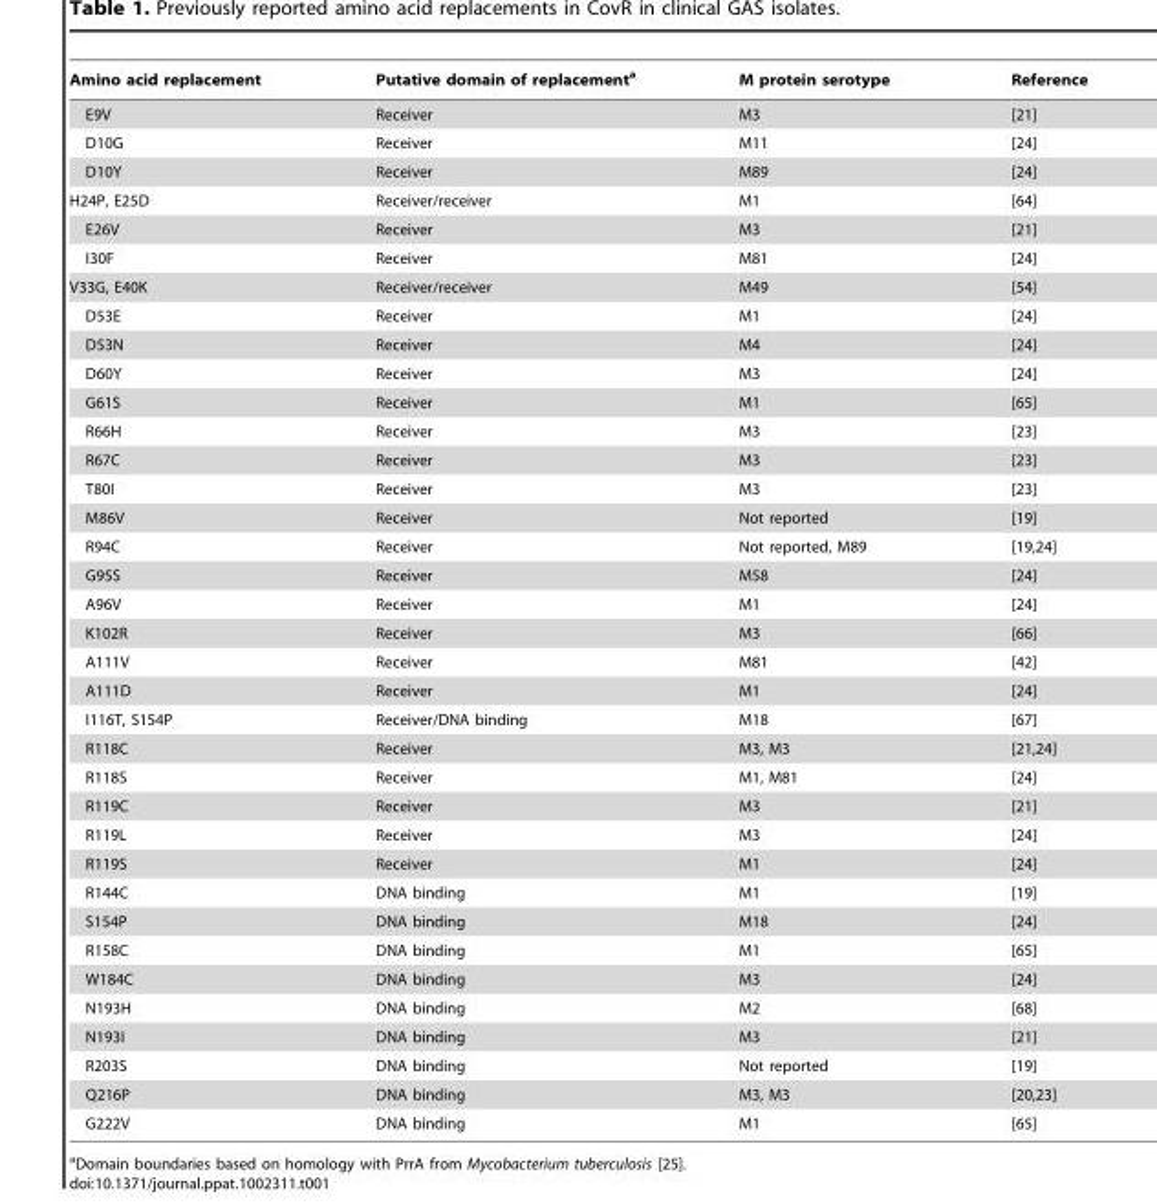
<table><thead><tr><td>Amino acid replacement</td><td>Putative domain of replacement<sup>a</sup></td><td>M protein serotype</td><td>Reference</td></tr></thead><tbody><tr><td>E9V</td><td>Receiver</td><td>M3</td><td>[21]</td></tr><tr><td>D10G</td><td>Receiver</td><td>M11</td><td>[24]</td></tr><tr><td>D10Y</td><td>Receiver</td><td>M89</td><td>[24]</td></tr><tr><td>H24P, E25D</td><td>Receiver/receiver</td><td>M1</td><td>[64]</td></tr><tr><td>E26V</td><td>Receiver</td><td>M3</td><td>[21]</td></tr><tr><td>I30F</td><td>Receiver</td><td>M81</td><td>[24]</td></tr><tr><td>V33G, E40K</td><td>Receiver/receiver</td><td>M49</td><td>[54]</td></tr><tr><td>D53E</td><td>Receiver</td><td>M1</td><td>[24]</td></tr><tr><td>D53N</td><td>Receiver</td><td>M4</td><td>[24]</td></tr><tr><td>D60Y</td><td>Receiver</td><td>M3</td><td>[24]</td></tr><tr><td>G61S</td><td>Receiver</td><td>M1</td><td>[65]</td></tr><tr><td>R66H</td><td>Receiver</td><td>M3</td><td>[23]</td></tr><tr><td>R67C</td><td>Receiver</td><td>M3</td><td>[23]</td></tr><tr><td>T80I</td><td>Receiver</td><td>M3</td><td>[23]</td></tr><tr><td>M86V</td><td>Receiver</td><td>Not reported</td><td>[19]</td></tr><tr><td>R94C</td><td>Receiver</td><td>Not reported, M89</td><td>[19,24]</td></tr><tr><td>G95S</td><td>Receiver</td><td>M58</td><td>[24]</td></tr><tr><td>A96V</td><td>Receiver</td><td>M1</td><td>[24]</td></tr><tr><td>K102R</td><td>Receiver</td><td>M3</td><td>[66]</td></tr><tr><td>A111V</td><td>Receiver</td><td>M81</td><td>[42]</td></tr><tr><td>A111D</td><td>Receiver</td><td>M1</td><td>[24]</td></tr><tr><td>I116T, S154P</td><td>Receiver/DNA binding</td><td>M18</td><td>[67]</td></tr><tr><td>R118C</td><td>Receiver</td><td>M3, M3</td><td>[21,24]</td></tr><tr><td>R118S</td><td>Receiver</td><td>M1, M81</td><td>[24]</td></tr><tr><td>R119C</td><td>Receiver</td><td>M3</td><td>[21]</td></tr><tr><td>R119L</td><td>Receiver</td><td>M3</td><td>[24]</td></tr><tr><td>R119S</td><td>Receiver</td><td>M1</td><td>[24]</td></tr><tr><td>R144C</td><td>DNA binding</td><td>M1</td><td>[19]</td></tr><tr><td>S154P</td><td>DNA binding</td><td>M18</td><td>[24]</td></tr><tr><td>R158C</td><td>DNA binding</td><td>M1</td><td>[65]</td></tr><tr><td>W184C</td><td>DNA binding</td><td>M3</td><td>[24]</td></tr><tr><td>N193H</td><td>DNA binding</td><td>M2</td><td>[68]</td></tr><tr><td>N193I</td><td>DNA binding</td><td>M3</td><td>[21]</td></tr><tr><td>R203S</td><td>DNA binding</td><td>Not reported</td><td>[19]</td></tr><tr><td>Q216P</td><td>DNA binding</td><td>M3, M3</td><td>[20,23]</td></tr><tr><td>G222V</td><td>DNA binding</td><td>M1</td><td>[65]</td></tr></tbody></table>